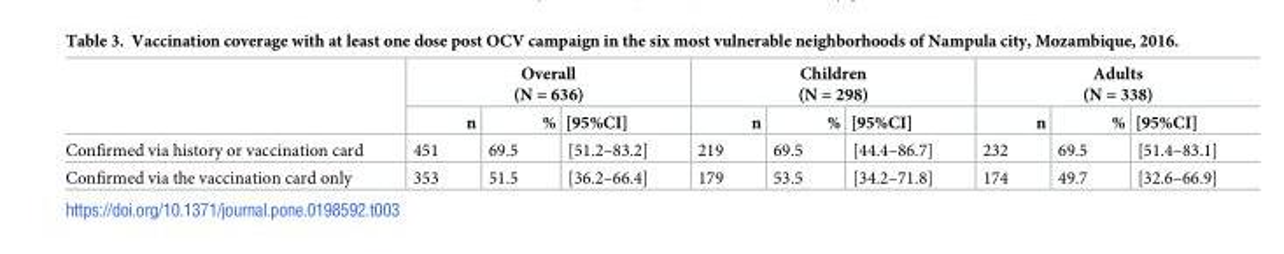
<table><thead><tr><td rowspan="2"></td><td colspan="3">Overall (N = 636)</td><td colspan="3">Children (N = 298)</td><td colspan="3">Adults (N = 338)</td></tr><tr><td>n</td><td>%</td><td>[95%CI]</td><td>n</td><td>%</td><td>[95%CI]</td><td>n</td><td>%</td><td>[95%CI]</td></tr></thead><tbody><tr><td>Confirmed via history or vaccination card</td><td>451</td><td>69.5</td><td>[51.2–83.2]</td><td>219</td><td>69.5</td><td>[44.4–86.7]</td><td>232</td><td>69.5</td><td>[51.4–83.1]</td></tr><tr><td>Confirmed via the vaccination card only</td><td>353</td><td>51.5</td><td>[36.2–66.4]</td><td>179</td><td>53.5</td><td>[34.2–71.8]</td><td>174</td><td>49.7</td><td>[32.6–66.9]</td></tr></tbody></table>